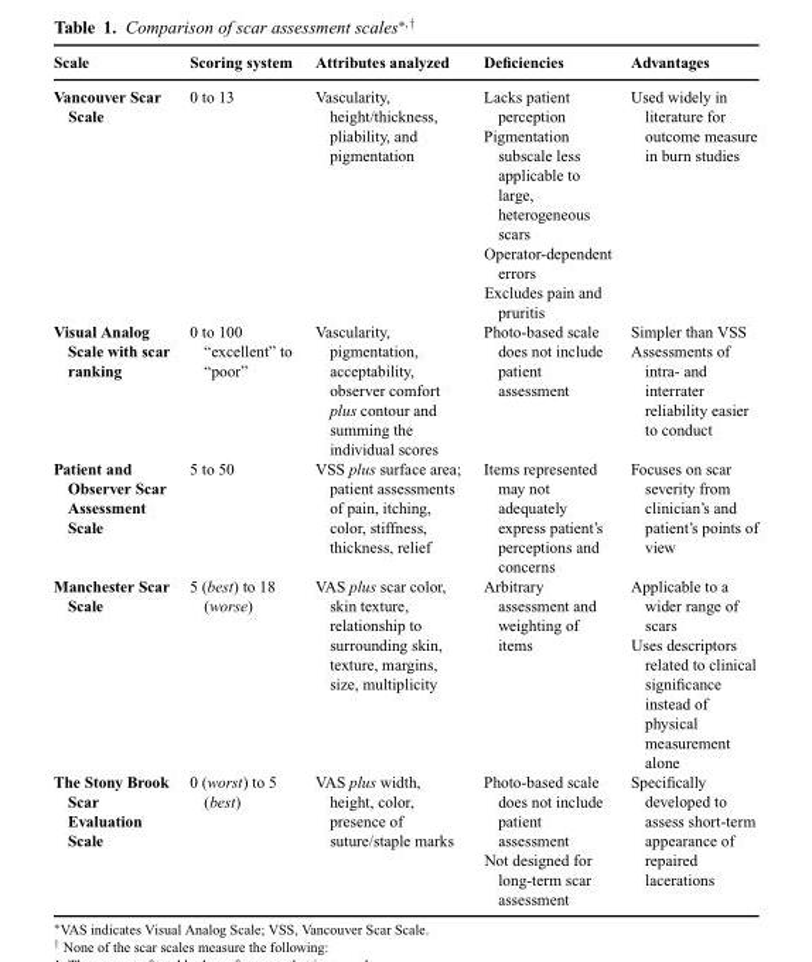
<table><thead><tr><td>Scale</td><td>Scoring system</td><td>Attributes analyzed</td><td>Deficiencies</td><td>Advantages</td></tr></thead><tbody><tr><td>Vancouver Scar Scale</td><td>0 to 13</td><td>Vascularity, height/thickness, pliability, and pigmentation</td><td>Lacks patient perception Pigmentation subscale less applicable to large, heterogeneous scars Operator-dependent errors Excludes pain and pruritis</td><td>Used widely in literature for outcome measure in burn studies</td></tr><tr><td>Visual Analog Scale with scar ranking</td><td>0 to 100 “excellent” to “poor”</td><td>Vascularity, pigmentation, acceptability, observer comfort plus contour and summing the individual scores</td><td>Photo-based scale does not include patient assessment</td><td>Simpler than VSS Assessments of intra- and interrater reliability easier to conduct</td></tr><tr><td>Patient and Observer Scar Assessment Scale</td><td>5 to 50</td><td>VSS plus surface area; patient assessments of pain, itching, color, stiffness, thickness, relief</td><td>Items represented may not adequately express patient’s perceptions and concerns</td><td>Focuses on scar severity from clinician’s and patient’s points of view</td></tr><tr><td>Manchester Scar Scale</td><td>5 (best) to 18 (worse)</td><td>VAS plus scar color, skin texture, relationship to surrounding skin, texture, margins, size, multiplicity</td><td>Arbitrary assessment and weighting of items</td><td>Applicable to a wider range of scars Uses descriptors related to clinical significance instead of physical measurement alone</td></tr><tr><td>The Stony Brook Scar Evaluation Scale</td><td>0 (worst) to 5 (best)</td><td>VAS plus width, height, color, presence of suture/staple marks</td><td>Photo-based scale does not include patient assessment Not designed for long-term scar assessment</td><td>Specifically developed to assess short-term appearance of repaired lacerations</td></tr></tbody></table>